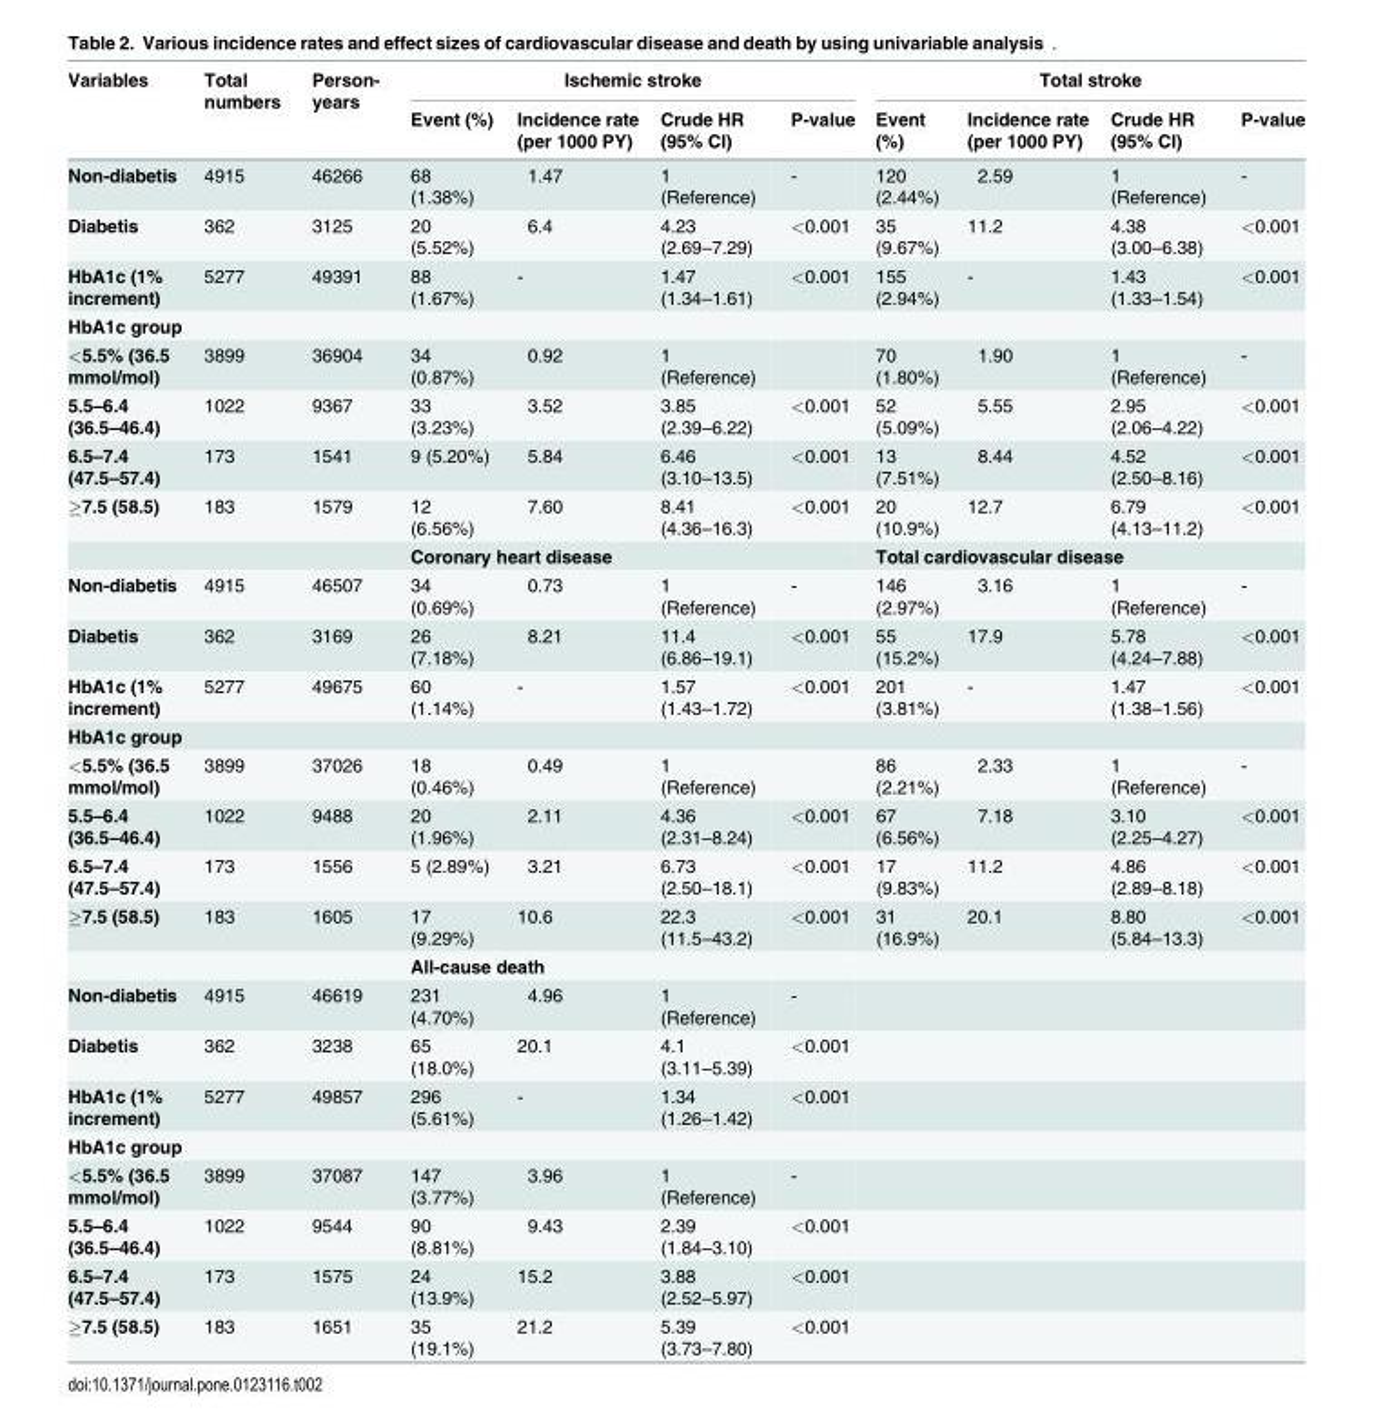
<table><thead><tr><td rowspan="2">Variables</td><td rowspan="2">Total numbers</td><td rowspan="2">Person- years</td><td colspan="4">Ischemic stroke</td><td colspan="4">Total stroke</td></tr><tr><td>Event (%)</td><td>Incidence rate (per 1000 PY)</td><td>Crude HR (95% CI)</td><td>P-value</td><td>Event (%)</td><td>Incidence rate (per 1000 PY)</td><td>Crude HR (95% CI)</td><td>P-value</td></tr></thead><tbody><tr><td>Non-diabetis</td><td>4915</td><td>46266</td><td>68 (1.38%)</td><td>1.47</td><td>1 (Reference)</td><td>-</td><td>120 (2.44%)</td><td>2.59</td><td>1 (Reference)</td><td>-</td></tr><tr><td>Diabetis</td><td>362</td><td>3125</td><td>20 (5.52%)</td><td>6.4</td><td>4.23 (2.69–7.29)</td><td>&lt;0.001</td><td>35 (9.67%)</td><td>11.2</td><td>4.38 (3.00–6.38)</td><td>&lt;0.001</td></tr><tr><td>HbA1c (1% increment)</td><td>5277</td><td>49391</td><td>88 (1.67%)</td><td>-</td><td>1.47 (1.34–1.61)</td><td>&lt;0.001</td><td>155 (2.94%)</td><td>-</td><td>1.43 (1.33–1.54)</td><td>&lt;0.001</td></tr><tr><td colspan="11">HbA1c group</td></tr><tr><td>&lt;5.5% (36.5 mmol/mol)</td><td>3899</td><td>36904</td><td>34 (0.87%)</td><td>0.92</td><td>1 (Reference)</td><td></td><td>70 (1.80%)</td><td>1.90</td><td>1 (Reference)</td><td>-</td></tr><tr><td>5.5–6.4 (36.5–46.4)</td><td>1022</td><td>9367</td><td>33 (3.23%)</td><td>3.52</td><td>3.85 (2.39–6.22)</td><td>&lt;0.001</td><td>52 (5.09%)</td><td>5.55</td><td>2.95 (2.06–4.22)</td><td>&lt;0.001</td></tr><tr><td>6.5–7.4 (47.5–57.4)</td><td>173</td><td>1541</td><td>9 (5.20%)</td><td>5.84</td><td>6.46 (3.10–13.5)</td><td>&lt;0.001</td><td>13 (7.51%)</td><td>8.44</td><td>4.52 (2.50–8.16)</td><td>&lt;0.001</td></tr><tr><td>≥7.5 (58.5)</td><td>183</td><td>1579</td><td>12 (6.56%)</td><td>7.60</td><td>8.41 (4.36–16.3)</td><td>&lt;0.001</td><td>20 (10.9%)</td><td>12.7</td><td>6.79 (4.13–11.2)</td><td>&lt;0.001</td></tr><tr><td colspan="3"></td><td colspan="4">Coronary heart disease</td><td colspan="4">Total cardiovascular disease</td></tr><tr><td>Non-diabetis</td><td>4915</td><td>46507</td><td>34 (0.69%)</td><td>0.73</td><td>1 (Reference)</td><td>-</td><td>146 (2.97%)</td><td>3.16</td><td>1 (Reference)</td><td>-</td></tr><tr><td>Diabetis</td><td>362</td><td>3169</td><td>26 (7.18%)</td><td>8.21</td><td>11.4 (6.86–19.1)</td><td>&lt;0.001</td><td>55 (15.2%)</td><td>17.9</td><td>5.78 (4.24–7.88)</td><td>&lt;0.001</td></tr><tr><td>HbA1c (1% increment)</td><td>5277</td><td>49675</td><td>60 (1.14%)</td><td>-</td><td>1.57 (1.43–1.72)</td><td>&lt;0.001</td><td>201 (3.81%)</td><td>-</td><td>1.47 (1.38–1.56)</td><td>&lt;0.001</td></tr><tr><td colspan="11">HbA1c group</td></tr><tr><td>&lt;5.5% (36.5 mmol/mol)</td><td>3899</td><td>37026</td><td>18 (0.46%)</td><td>0.49</td><td>1 (Reference)</td><td></td><td>86 (2.21%)</td><td>2.33</td><td>1 (Reference)</td><td>-</td></tr><tr><td>5.5–6.4 (36.5–46.4)</td><td>1022</td><td>9488</td><td>20 (1.96%)</td><td>2.11</td><td>4.36 (2.31–8.24)</td><td>&lt;0.001</td><td>67 (6.56%)</td><td>7.18</td><td>3.10 (2.25–4.27)</td><td>&lt;0.001</td></tr><tr><td>6.5–7.4 (47.5–57.4)</td><td>173</td><td>1556</td><td>5 (2.89%)</td><td>3.21</td><td>6.73 (2.50–18.1)</td><td>&lt;0.001</td><td>17 (9.83%)</td><td>11.2</td><td>4.86 (2.89–8.18)</td><td>&lt;0.001</td></tr><tr><td>≥7.5 (58.5)</td><td>183</td><td>1605</td><td>17 (9.29%)</td><td>10.6</td><td>22.3 (11.5–43.2)</td><td>&lt;0.001</td><td>31 (16.9%)</td><td>20.1</td><td>8.80 (5.84–13.3)</td><td>&lt;0.001</td></tr><tr><td colspan="3"></td><td colspan="4">All-cause death</td><td colspan="4"></td></tr><tr><td>Non-diabetis</td><td>4915</td><td>46619</td><td>231 (4.70%)</td><td>4.96</td><td>1 (Reference)</td><td>-</td><td></td><td></td><td></td><td></td></tr><tr><td>Diabetis</td><td>362</td><td>3238</td><td>65 (18.0%)</td><td>20.1</td><td>4.1 (3.11–5.39)</td><td>&lt;0.001</td><td></td><td></td><td></td><td></td></tr><tr><td>HbA1c (1% increment)</td><td>5277</td><td>49857</td><td>296 (5.61%)</td><td>-</td><td>1.34 (1.26–1.42)</td><td>&lt;0.001</td><td></td><td></td><td></td><td></td></tr><tr><td colspan="11">HbA1c group</td></tr><tr><td>&lt;5.5% (36.5 mmol/mol)</td><td>3899</td><td>37087</td><td>147 (3.77%)</td><td>3.96</td><td>1 (Reference)</td><td>-</td><td></td><td></td><td></td><td></td></tr><tr><td>5.5–6.4 (36.5–46.4)</td><td>1022</td><td>9544</td><td>90 (8.81%)</td><td>9.43</td><td>2.39 (1.84–3.10)</td><td>&lt;0.001</td><td></td><td></td><td></td><td></td></tr><tr><td>6.5–7.4 (47.5–57.4)</td><td>173</td><td>1575</td><td>24 (13.9%)</td><td>15.2</td><td>3.88 (2.52–5.97)</td><td>&lt;0.001</td><td></td><td></td><td></td><td></td></tr><tr><td>≥7.5 (58.5)</td><td>183</td><td>1651</td><td>35 (19.1%)</td><td>21.2</td><td>5.39 (3.73–7.80)</td><td>&lt;0.001</td><td></td><td></td><td></td><td></td></tr></tbody></table>